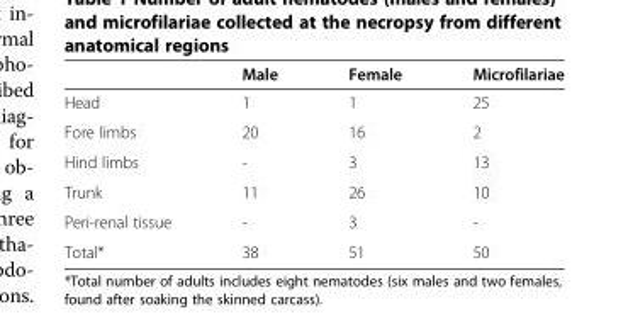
<table><thead><tr><td></td><td>Male</td><td>Female</td><td>Microfilariae</td></tr></thead><tbody><tr><td>Head</td><td>1</td><td>1</td><td>25</td></tr><tr><td>Fore limbs</td><td>20</td><td>16</td><td>2</td></tr><tr><td>Hind limbs</td><td>-</td><td>3</td><td>13</td></tr><tr><td>Trunk</td><td>11</td><td>26</td><td>10</td></tr><tr><td>Peri-renal tissue</td><td>-</td><td>3</td><td>-</td></tr><tr><td>Total*</td><td>38</td><td>51</td><td>50</td></tr></tbody></table>